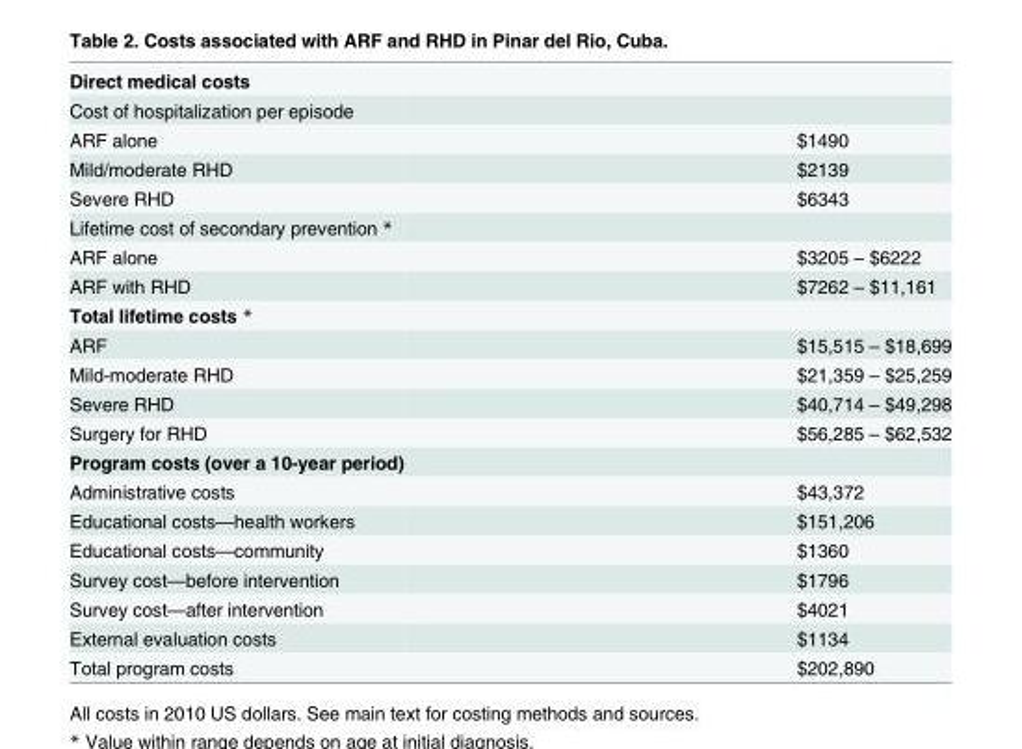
<table><tbody><tr><td colspan="2">Direct medical costs</td></tr><tr><td colspan="2">Cost of hospitalization per episode</td></tr><tr><td>ARF alone</td><td>$1490</td></tr><tr><td>Mild/moderate RHD</td><td>$2139</td></tr><tr><td>Severe RHD</td><td>$6343</td></tr><tr><td colspan="2">Lifetime cost of secondary prevention *</td></tr><tr><td>ARF alone</td><td>$3205 – $6222</td></tr><tr><td>ARF with RHD</td><td>$7262 – $11,161</td></tr><tr><td colspan="2">Total lifetime costs *</td></tr><tr><td>ARF</td><td>$15,515 – $18,699</td></tr><tr><td>Mild-moderate RHD</td><td>$21,359 – $25,259</td></tr><tr><td>Severe RHD</td><td>$40,714 – $49,298</td></tr><tr><td>Surgery for RHD</td><td>$56,285 – $62,532</td></tr><tr><td colspan="2">Program costs (over a 10-year period)</td></tr><tr><td>Administrative costs</td><td>$43,372</td></tr><tr><td>Educational costs—health workers</td><td>$151,206</td></tr><tr><td>Educational costs—community</td><td>$1360</td></tr><tr><td>Survey cost—before intervention</td><td>$1796</td></tr><tr><td>Survey cost—after intervention</td><td>$4021</td></tr><tr><td>External evaluation costs</td><td>$1134</td></tr><tr><td>Total program costs</td><td>$202,890</td></tr></tbody></table>